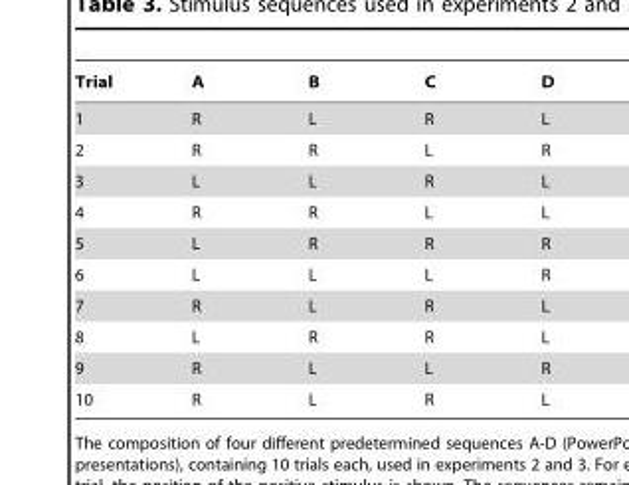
<table><thead><tr><td>Trial</td><td>A</td><td>B</td><td>C</td><td>D</td></tr></thead><tbody><tr><td>1</td><td>R</td><td>L</td><td>R</td><td>L</td></tr><tr><td>2</td><td>R</td><td>R</td><td>L</td><td>R</td></tr><tr><td>3</td><td>L</td><td>L</td><td>R</td><td>L</td></tr><tr><td>4</td><td>R</td><td>R</td><td>L</td><td>L</td></tr><tr><td>5</td><td>L</td><td>R</td><td>R</td><td>R</td></tr><tr><td>6</td><td>L</td><td>L</td><td>L</td><td>R</td></tr><tr><td>7</td><td>R</td><td>L</td><td>R</td><td>L</td></tr><tr><td>8</td><td>L</td><td>R</td><td>R</td><td>L</td></tr><tr><td>9</td><td>R</td><td>L</td><td>L</td><td>R</td></tr><tr><td>10</td><td>R</td><td>L</td><td>R</td><td>L</td></tr></tbody></table>